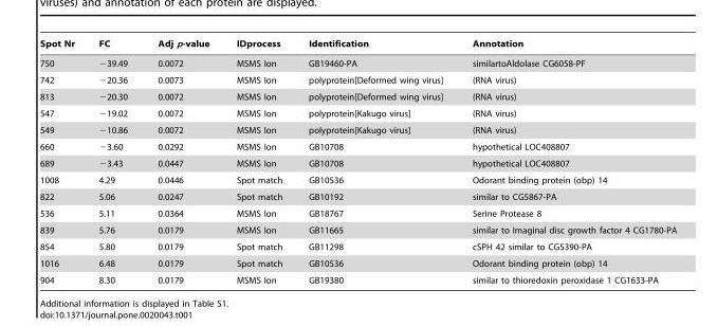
<table><thead><tr><td>Spot Nr</td><td>FC</td><td>Adj p-value</td><td>IDprocess</td><td>Identification</td><td>Annotation</td></tr></thead><tbody><tr><td>750</td><td>−39.49</td><td>0.0072</td><td>MSMS Ion</td><td>GB19460-PA</td><td>similartoAldolase CG6058-PF</td></tr><tr><td>742</td><td>−20.36</td><td>0.0073</td><td>MSMS Ion</td><td>polyprotein[Deformed wing virus]</td><td>(RNA virus)</td></tr><tr><td>813</td><td>−20.30</td><td>0.0072</td><td>MSMS Ion</td><td>polyprotein[Deformed wing virus]</td><td>(RNA virus)</td></tr><tr><td>547</td><td>−19.02</td><td>0.0072</td><td>MSMS Ion</td><td>polyprotein[Kakugo virus]</td><td>(RNA virus)</td></tr><tr><td>549</td><td>−10.86</td><td>0.0072</td><td>MSMS Ion</td><td>polyprotein[Kakugo virus]</td><td>(RNA virus)</td></tr><tr><td>660</td><td>−3.60</td><td>0.0292</td><td>MSMS Ion</td><td>GB10708</td><td>hypothetical LOC408807</td></tr><tr><td>689</td><td>−3.43</td><td>0.0447</td><td>MSMS Ion</td><td>GB10708</td><td>hypothetical LOC408807</td></tr><tr><td>1008</td><td>4.29</td><td>0.0446</td><td>Spot match</td><td>GB10536</td><td>Odorant binding protein (obp) 14</td></tr><tr><td>822</td><td>5.06</td><td>0.0247</td><td>Spot match</td><td>GB10192</td><td>similar to CG5867-PA</td></tr><tr><td>536</td><td>5.11</td><td>0.0364</td><td>MSMS Ion</td><td>GB18767</td><td>Serine Protease 8</td></tr><tr><td>839</td><td>5.76</td><td>0.0179</td><td>MSMS Ion</td><td>GB11665</td><td>similar to Imaginal disc growth factor 4 CG1780-PA</td></tr><tr><td>854</td><td>5.80</td><td>0.0179</td><td>Spot match</td><td>GB11298</td><td>cSPH 42 similar to CG5390-PA</td></tr><tr><td>1016</td><td>6.48</td><td>0.0179</td><td>Spot match</td><td>GB10536</td><td>Odorant binding protein (obp) 14</td></tr><tr><td>904</td><td>8.30</td><td>0.0179</td><td>MSMS Ion</td><td>GB19380</td><td>similar to thioredoxin peroxidase 1 CG1633-PA</td></tr></tbody></table>